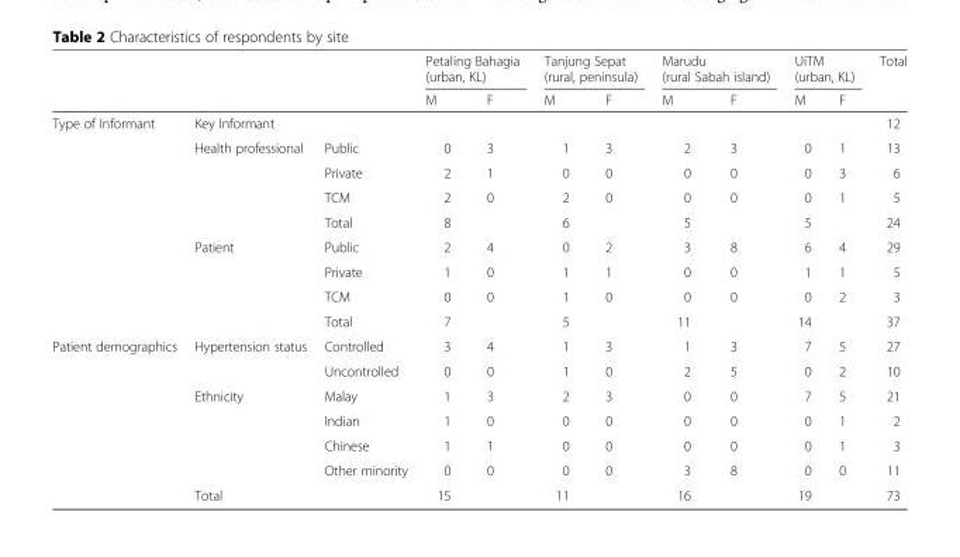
<table><thead><tr><td rowspan="2"></td><td rowspan="2"></td><td rowspan="2"></td><td colspan="2">Petaling Bahagia (urban, KL)</td><td colspan="2">Tanjung Sepat (rural, peninsula)</td><td colspan="2">Marudu (rural Sabah island)</td><td colspan="2">UiTM (urban, KL)</td><td rowspan="2">Total</td></tr><tr><td>M</td><td>F</td><td>M</td><td>F</td><td>M</td><td>F</td><td>M</td><td>F</td></tr></thead><tbody><tr><td rowspan="9">Type of Informant</td><td colspan="2">Key Informant</td><td></td><td></td><td></td><td></td><td></td><td></td><td></td><td></td><td>12</td></tr><tr><td rowspan="4">Health professional</td><td>Public</td><td>0</td><td>3</td><td>1</td><td>3</td><td>2</td><td>3</td><td>0</td><td>1</td><td>13</td></tr><tr><td>Private</td><td>2</td><td>1</td><td>0</td><td>0</td><td>0</td><td>0</td><td>0</td><td>3</td><td>6</td></tr><tr><td>TCM</td><td>2</td><td>0</td><td>2</td><td>0</td><td>0</td><td>0</td><td>0</td><td>1</td><td>5</td></tr><tr><td>Total</td><td colspan="2">8</td><td colspan="2">6</td><td colspan="2">5</td><td colspan="2">5</td><td>24</td></tr><tr><td rowspan="4">Patient</td><td>Public</td><td>2</td><td>4</td><td>0</td><td>2</td><td>3</td><td>8</td><td>6</td><td>4</td><td>29</td></tr><tr><td>Private</td><td>1</td><td>0</td><td>1</td><td>1</td><td>0</td><td>0</td><td>1</td><td>1</td><td>5</td></tr><tr><td>TCM</td><td>0</td><td>0</td><td>1</td><td>0</td><td>0</td><td>0</td><td>0</td><td>2</td><td>3</td></tr><tr><td>Total</td><td colspan="2">7</td><td colspan="2">5</td><td colspan="2">11</td><td colspan="2">14</td><td>37</td></tr><tr><td rowspan="7">Patient demographics</td><td rowspan="2">Hypertension status</td><td>Controlled</td><td>3</td><td>4</td><td>1</td><td>3</td><td>1</td><td>3</td><td>7</td><td>5</td><td>27</td></tr><tr><td>Uncontrolled</td><td>0</td><td>0</td><td>1</td><td>0</td><td>2</td><td>5</td><td>0</td><td>2</td><td>10</td></tr><tr><td rowspan="4">Ethnicity</td><td>Malay</td><td>1</td><td>3</td><td>2</td><td>3</td><td>0</td><td>0</td><td>7</td><td>5</td><td>21</td></tr><tr><td>Indian</td><td>1</td><td>0</td><td>0</td><td>0</td><td>0</td><td>0</td><td>0</td><td>1</td><td>2</td></tr><tr><td>Chinese</td><td>1</td><td>1</td><td>0</td><td>0</td><td>0</td><td>0</td><td>0</td><td>1</td><td>3</td></tr><tr><td>Other minority</td><td>0</td><td>0</td><td>0</td><td>0</td><td>3</td><td>8</td><td>0</td><td>0</td><td>11</td></tr><tr><td colspan="2">Total</td><td colspan="2">15</td><td colspan="2">11</td><td colspan="2">16</td><td colspan="2">19</td><td>73</td></tr></tbody></table>